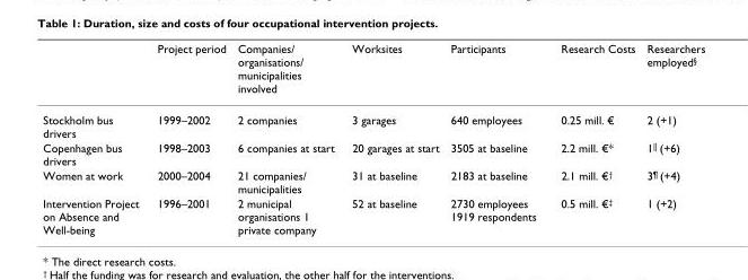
<table><thead><tr><td></td><td>Project period</td><td>Companies/ organisations/ municipalities involved</td><td>Worksites</td><td>Participants</td><td>Research Costs</td><td>Researchers employed<sup>§</sup></td></tr></thead><tbody><tr><td>Stockholm bus drivers</td><td>1999–2002</td><td>2 companies</td><td>3 garages</td><td>640 employees</td><td>0.25 mill. €</td><td>2 (+1)</td></tr><tr><td>Copenhagen bus drivers</td><td>1998–2003</td><td>6 companies at start</td><td>20 garages at start</td><td>3505 at baseline</td><td>2.2 mill. €*</td><td>1<sup>||</sup> (+6)</td></tr><tr><td>Women at work</td><td>2000–2004</td><td>21 companies/ municipalities</td><td>31 at baseline</td><td>2183 at baseline</td><td>2.1 mill. €<sup>†</sup></td><td>3<sup>¶</sup> (+4)</td></tr><tr><td>Intervention Project on Absence and Well-being</td><td>1996–2001</td><td>2 municipal organisations 1 private company</td><td>52 at baseline</td><td>2730 employees 1919 respondents</td><td>0.5 mill. €<sup>‡</sup></td><td>1 (+2)</td></tr></tbody></table>